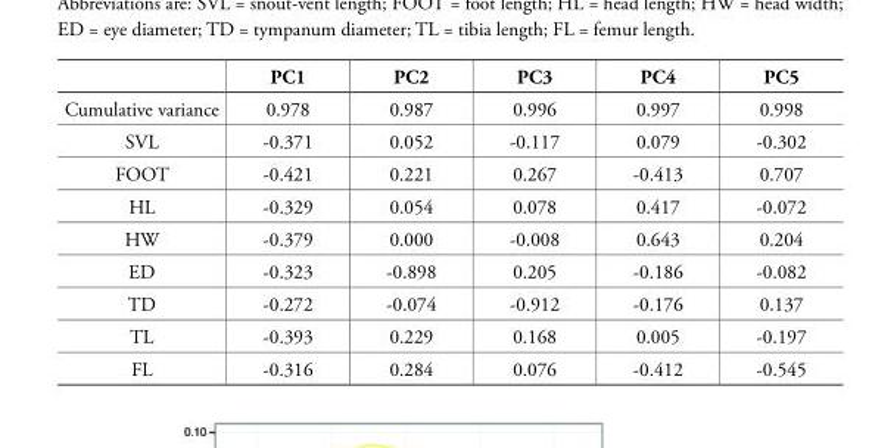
<table><thead><tr><td></td><td>PC1</td><td>PC2</td><td>PC3</td><td>PC4</td><td>PC5</td></tr></thead><tbody><tr><td>Cumulative variance</td><td>0.978</td><td>0.987</td><td>0.996</td><td>0.997</td><td>0.998</td></tr><tr><td>SVL</td><td>-0.371</td><td>0.052</td><td>-0.117</td><td>0.079</td><td>-0.302</td></tr><tr><td>FOOT</td><td>-0.421</td><td>0.221</td><td>0.267</td><td>-0.413</td><td>0.707</td></tr><tr><td>HL</td><td>-0.329</td><td>0.054</td><td>0.078</td><td>0.417</td><td>-0.072</td></tr><tr><td>HW</td><td>-0.379</td><td>0.000</td><td>-0.008</td><td>0.643</td><td>0.204</td></tr><tr><td>ED</td><td>-0.323</td><td>-0.898</td><td>0.205</td><td>-0.186</td><td>-0.082</td></tr><tr><td>TD</td><td>-0.272</td><td>-0.074</td><td>-0.912</td><td>-0.176</td><td>0.137</td></tr><tr><td>TL</td><td>-0.393</td><td>0.229</td><td>0.168</td><td>0.005</td><td>-0.197</td></tr><tr><td>FL</td><td>-0.316</td><td>0.284</td><td>0.076</td><td>-0.412</td><td>-0.545</td></tr></tbody></table>